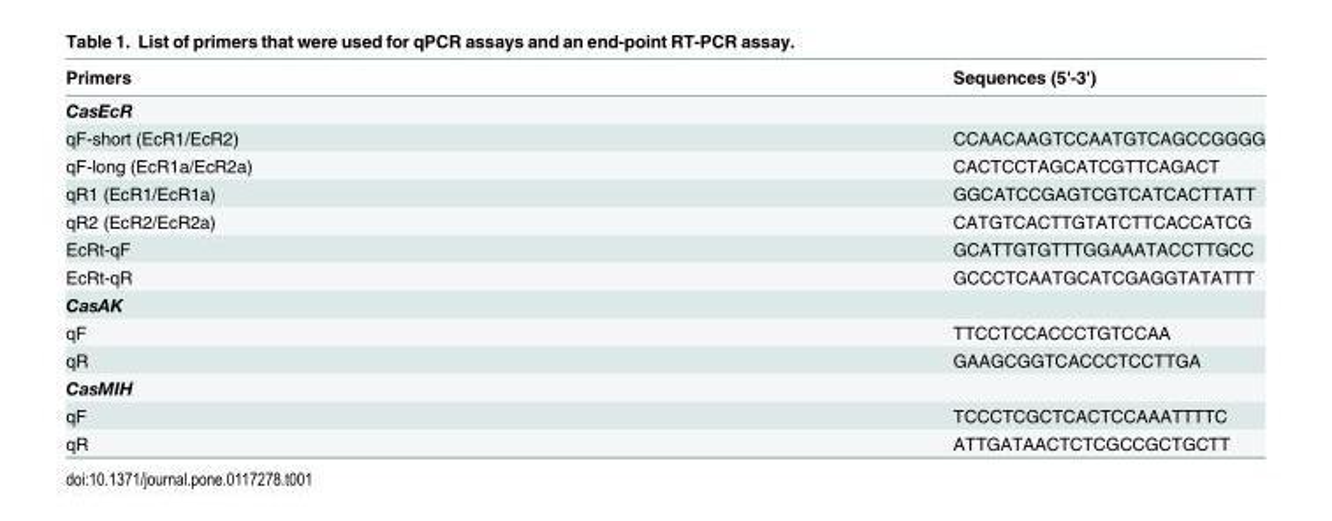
<table><thead><tr><td>Primers</td><td>Sequences (5&#x27;-3&#x27;)</td></tr></thead><tbody><tr><td colspan="2">CasEcR</td></tr><tr><td>qF-short (EcR1/EcR2)</td><td>CCAACAAGTCCAATGTCAGCCGGGG</td></tr><tr><td>qF-long (EcR1a/EcR2a)</td><td>CACTCCTAGCATCGTTCAGACT</td></tr><tr><td>qR1 (EcR1/EcR1a)</td><td>GGCATCCGAGTCGTCATCACTTATT</td></tr><tr><td>qR2 (EcR2/EcR2a)</td><td>CATGTCACTTGTATCTTCACCATCG</td></tr><tr><td>EcRt-qF</td><td>GCATTGTGTTTGGAAATACCTTGCC</td></tr><tr><td>EcRt-qR</td><td>GCCCTCAATGCATCGAGGTATATTT</td></tr><tr><td colspan="2">CasAK</td></tr><tr><td>qF</td><td>TTCCTCCACCCTGTCCAA</td></tr><tr><td>qR</td><td>GAAGCGGTCACCCTCCTTGA</td></tr><tr><td colspan="2">CasMIH</td></tr><tr><td>qF</td><td>TCCCTCGCTCACTCCAAATTTTC</td></tr><tr><td>qR</td><td>ATTGATAACTCTCGCCGCTGCTT</td></tr></tbody></table>